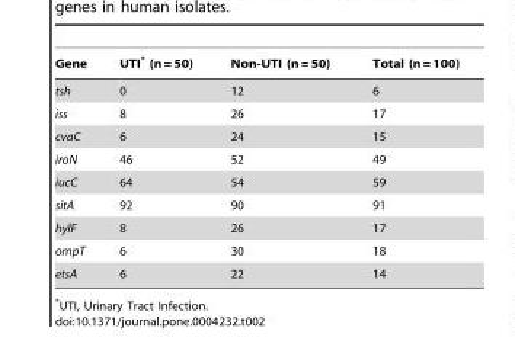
<table><thead><tr><td>Gene</td><td>UTI* (n = 50)</td><td>Non-UTI (n = 50)</td><td>Total (n = 100)</td></tr></thead><tbody><tr><td>tsh</td><td>0</td><td>12</td><td>6</td></tr><tr><td>iss</td><td>8</td><td>26</td><td>17</td></tr><tr><td>cvaC</td><td>6</td><td>24</td><td>15</td></tr><tr><td>iroN</td><td>46</td><td>52</td><td>49</td></tr><tr><td>iucC</td><td>64</td><td>54</td><td>59</td></tr><tr><td>sitA</td><td>92</td><td>90</td><td>91</td></tr><tr><td>hylF</td><td>8</td><td>26</td><td>17</td></tr><tr><td>ompT</td><td>6</td><td>30</td><td>18</td></tr><tr><td>etsA</td><td>6</td><td>22</td><td>14</td></tr></tbody></table>